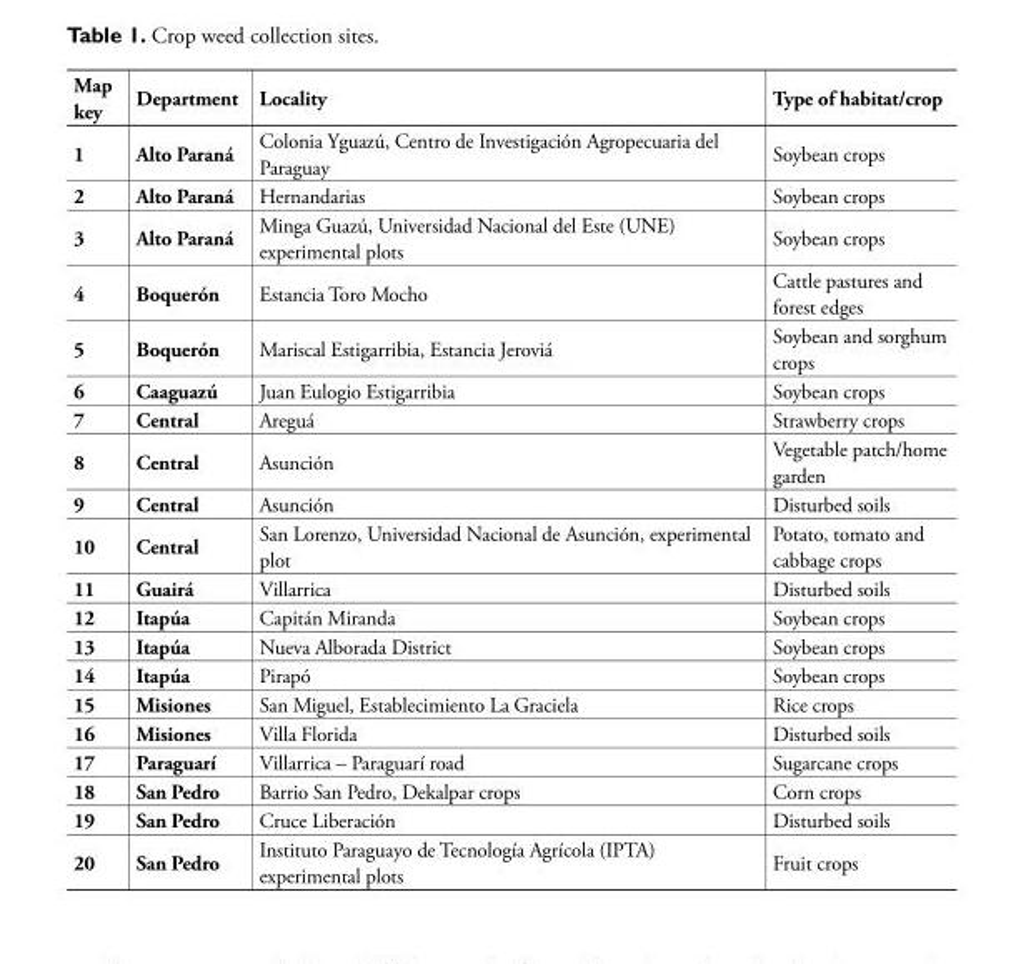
<table><thead><tr><td>Map key</td><td>Department</td><td>Locality</td><td>Type of habitat/crop</td></tr></thead><tbody><tr><td>1</td><td>Alto Paraná</td><td>Colonia Yguazú, Centro de Investigación Agropecuaria del Paraguay</td><td>Soybean crops</td></tr><tr><td>2</td><td>Alto Paraná</td><td>Hernandarias</td><td>Soybean crops</td></tr><tr><td>3</td><td>Alto Paraná</td><td>Minga Guazú, Universidad Nacional del Este (UNE) experimental plots</td><td>Soybean crops</td></tr><tr><td>4</td><td>Boquerón</td><td>Estancia Toro Mocho</td><td>Cattle pastures and forest edges</td></tr><tr><td>5</td><td>Boquerón</td><td>Mariscal Estigarribia, Estancia Jeroviá</td><td>Soybean and sorghum crops</td></tr><tr><td>6</td><td>Caaguazú</td><td>Juan Eulogio Estigarribia</td><td>Soybean crops</td></tr><tr><td>7</td><td>Central</td><td>Areguá</td><td>Strawberry crops</td></tr><tr><td>8</td><td>Central</td><td>Asunción</td><td>Vegetable patch/home garden</td></tr><tr><td>9</td><td>Central</td><td>Asunción</td><td>Disturbed soils</td></tr><tr><td>10</td><td>Central</td><td>San Lorenzo, Universidad Nacional de Asunción, experimental plot</td><td>Potato, tomato and cabbage crops</td></tr><tr><td>11</td><td>Guairá</td><td>Villarrica</td><td>Disturbed soils</td></tr><tr><td>12</td><td>Itapúa</td><td>Capitán Miranda</td><td>Soybean crops</td></tr><tr><td>13</td><td>Itapúa</td><td>Nueva Alborada District</td><td>Soybean crops</td></tr><tr><td>14</td><td>Itapúa</td><td>Pirapó</td><td>Soybean crops</td></tr><tr><td>15</td><td>Misiones</td><td>San Miguel, Establecimiento La Graciela</td><td>Rice crops</td></tr><tr><td>16</td><td>Misiones</td><td>Villa Florida</td><td>Disturbed soils</td></tr><tr><td>17</td><td>Paraguarí</td><td>Villarrica – Paraguarí road</td><td>Sugarcane crops</td></tr><tr><td>18</td><td>San Pedro</td><td>Barrio San Pedro, Dekalpar crops</td><td>Corn crops</td></tr><tr><td>19</td><td>San Pedro</td><td>Cruce Liberación</td><td>Disturbed soils</td></tr><tr><td>20</td><td>San Pedro</td><td>Instituto Paraguayo de Tecnología Agrícola (IPTA) experimental plots</td><td>Fruit crops</td></tr></tbody></table>